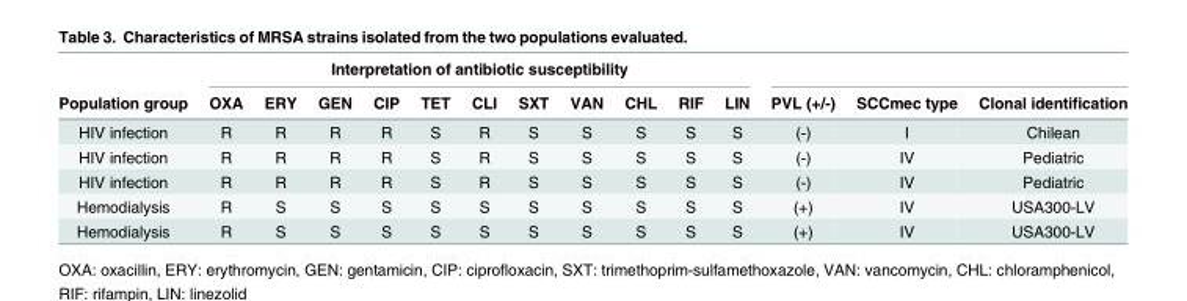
<table><thead><tr><td rowspan="2">Population group</td><td colspan="11">Interpretation of antibiotic susceptibility</td><td rowspan="2">PVL (+/-)</td><td rowspan="2">SCCmec type</td><td rowspan="2">Clonal identification</td></tr><tr><td>OXA</td><td>ERY</td><td>GEN</td><td>CIP</td><td>TET</td><td>CLI</td><td>SXT</td><td>VAN</td><td>CHL</td><td>RIF</td><td>LIN</td></tr></thead><tbody><tr><td>HIV infection</td><td>R</td><td>R</td><td>R</td><td>R</td><td>S</td><td>R</td><td>S</td><td>S</td><td>S</td><td>S</td><td>S</td><td>(-)</td><td>I</td><td>Chilean</td></tr><tr><td>HIV infection</td><td>R</td><td>R</td><td>R</td><td>R</td><td>S</td><td>R</td><td>S</td><td>S</td><td>S</td><td>S</td><td>S</td><td>(-)</td><td>IV</td><td>Pediatric</td></tr><tr><td>HIV infection</td><td>R</td><td>R</td><td>R</td><td>R</td><td>S</td><td>R</td><td>S</td><td>S</td><td>S</td><td>S</td><td>S</td><td>(-)</td><td>IV</td><td>Pediatric</td></tr><tr><td>Hemodialysis</td><td>R</td><td>S</td><td>S</td><td>S</td><td>S</td><td>S</td><td>S</td><td>S</td><td>S</td><td>S</td><td>S</td><td>(+)</td><td>IV</td><td>USA300-LV</td></tr><tr><td>Hemodialysis</td><td>R</td><td>S</td><td>S</td><td>S</td><td>S</td><td>S</td><td>S</td><td>S</td><td>S</td><td>S</td><td>S</td><td>(+)</td><td>IV</td><td>USA300-LV</td></tr></tbody></table>